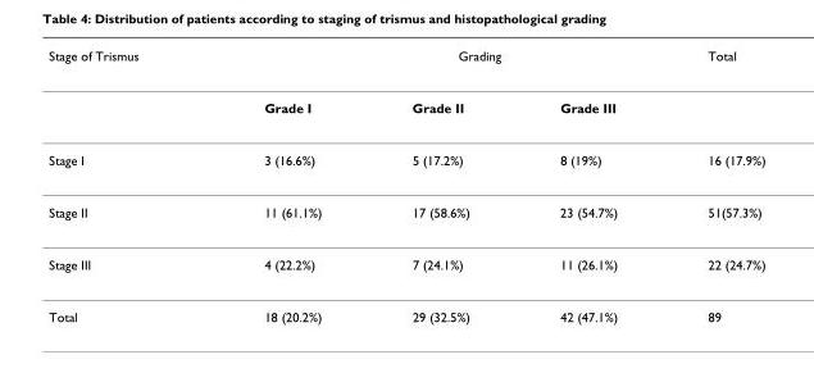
<table><thead><tr><td rowspan="2">Stage of Trismus</td><td colspan="3">Grading</td><td rowspan="2">Total</td></tr><tr><td>Grade I</td><td>Grade II</td><td>Grade III</td></tr></thead><tbody><tr><td>Stage I</td><td>3 (16.6%)</td><td>5 (17.2%)</td><td>8 (19%)</td><td>16 (17.9%)</td></tr><tr><td>Stage II</td><td>11 (61.1%)</td><td>17 (58.6%)</td><td>23 (54.7%)</td><td>51(57.3%)</td></tr><tr><td>Stage III</td><td>4 (22.2%)</td><td>7 (24.1%)</td><td>11 (26.1%)</td><td>22 (24.7%)</td></tr><tr><td>Total</td><td>18 (20.2%)</td><td>29 (32.5%)</td><td>42 (47.1%)</td><td>89</td></tr></tbody></table>